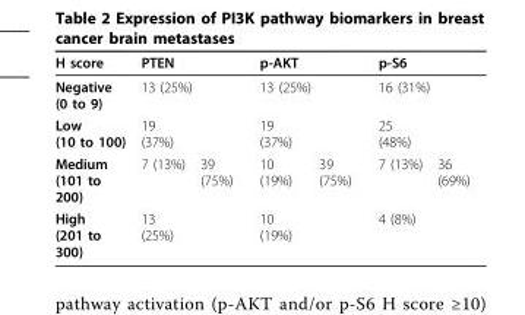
<table><thead><tr><td rowspan="3">H score Negative (0 to 9) Low (10 to 100)</td><td rowspan="2" colspan="2">PTEN 13 (25%)</td><td rowspan="2" colspan="2">p-AKT 13 (25%)</td><td rowspan="2" colspan="2">p-S6 16 (31%)</td></tr><tr></tr><tr><td>19 (37%)</td><td></td><td>19 (37%)</td><td></td><td>25 (48%)</td><td></td></tr></thead><tbody><tr><td>Medium (101 to 200)</td><td>7 (13%)</td><td>39 (75%)</td><td>10 (19%)</td><td>39 (75%)</td><td>7 (13%)</td><td>36 (69%)</td></tr><tr><td>High (201 to 300)</td><td>13 (25%)</td><td></td><td>10 (19%)</td><td></td><td>4 (8%)</td><td></td></tr></tbody></table>